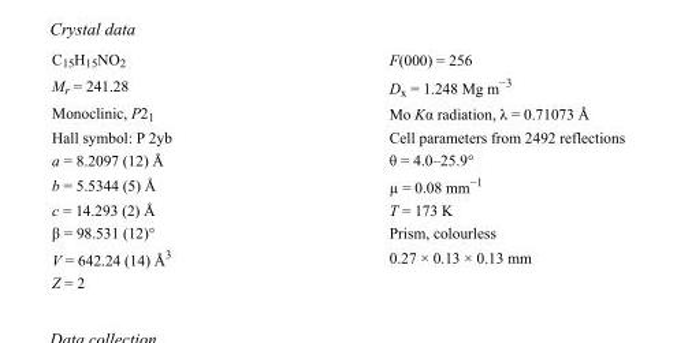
<table><tbody><tr><td>C<sub>15</sub>H<sub>15</sub>NO<sub>2</sub></td><td>F(000) = 256</td></tr><tr><td>M<sub>r</sub> = 241.28</td><td>D<sub>x</sub> = 1.248 Mg m<sup>−3</sup></td></tr><tr><td>Monoclinic, P2<sub>1</sub></td><td>Mo Kα radiation, λ = 0.71073 Å</td></tr><tr><td>Hall symbol: P 2yb</td><td>Cell parameters from 2492 reflections</td></tr><tr><td>a = 8.2097 (12) Å</td><td>θ = 4.0–25.9°</td></tr><tr><td>b = 5.5344 (5) Å</td><td>µ = 0.08 mm<sup>−1</sup></td></tr><tr><td>c = 14.293 (2) Å</td><td>T = 173 K</td></tr><tr><td>β = 98.531 (12)°</td><td>Prism, colourless</td></tr><tr><td>V = 642.24 (14) Å<sup>3</sup></td><td>0.27 × 0.13 × 0.13 mm</td></tr><tr><td>Z = 2</td><td></td></tr></tbody></table>